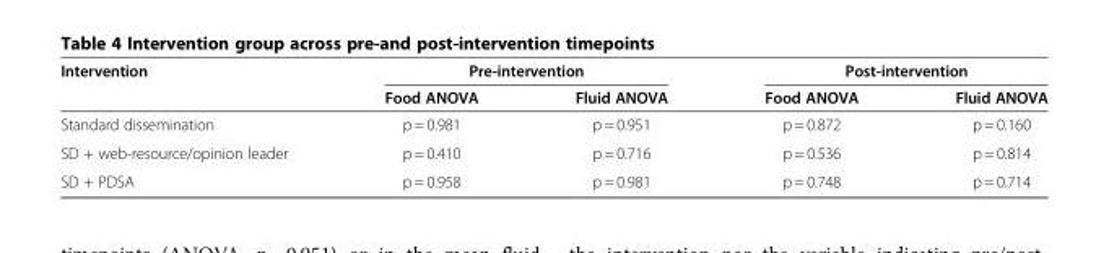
<table><thead><tr><td rowspan="2">Intervention</td><td colspan="2">Pre-intervention</td><td colspan="2">Post-intervention</td></tr><tr><td>Food ANOVA</td><td>Fluid ANOVA</td><td>Food ANOVA</td><td>Fluid ANOVA</td></tr></thead><tbody><tr><td>Standard dissemination</td><td>p = 0.981</td><td>p = 0.951</td><td>p = 0.872</td><td>p = 0.160</td></tr><tr><td>SD + web-resource/opinion leader</td><td>p = 0.410</td><td>p = 0.716</td><td>p = 0.536</td><td>p = 0.814</td></tr><tr><td>SD + PDSA</td><td>p = 0.958</td><td>p = 0.981</td><td>p = 0.748</td><td>p = 0.714</td></tr></tbody></table>